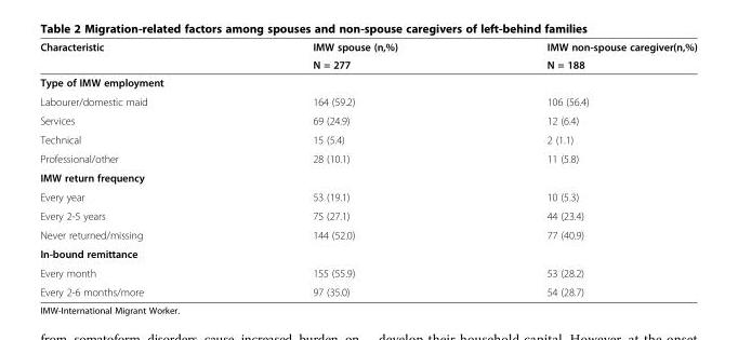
<table><thead><tr><td rowspan="2">Characteristic</td><td rowspan="2">IMW spouse (n,%) N = 277</td><td rowspan="2">IMW non-spouse caregiver(n,%) N = 188</td></tr><tr></tr></thead><tbody><tr><td colspan="3">Type of IMW employment</td></tr><tr><td>Labourer/domestic maid</td><td>164 (59.2)</td><td>106 (56.4)</td></tr><tr><td>Services</td><td>69 (24.9)</td><td>12 (6.4)</td></tr><tr><td>Technical</td><td>15 (5.4)</td><td>2 (1.1)</td></tr><tr><td>Professional/other</td><td>28 (10.1)</td><td>11 (5.8)</td></tr><tr><td colspan="3">IMW return frequency</td></tr><tr><td>Every year</td><td>53 (19.1)</td><td>10 (5.3)</td></tr><tr><td>Every 2-5 years</td><td>75 (27.1)</td><td>44 (23.4)</td></tr><tr><td>Never returned/missing</td><td>144 (52.0)</td><td>77 (40.9)</td></tr><tr><td colspan="3">In-bound remittance</td></tr><tr><td>Every month</td><td>155 (55.9)</td><td>53 (28.2)</td></tr><tr><td>Every 2-6 months/more</td><td>97 (35.0)</td><td>54 (28.7)</td></tr></tbody></table>